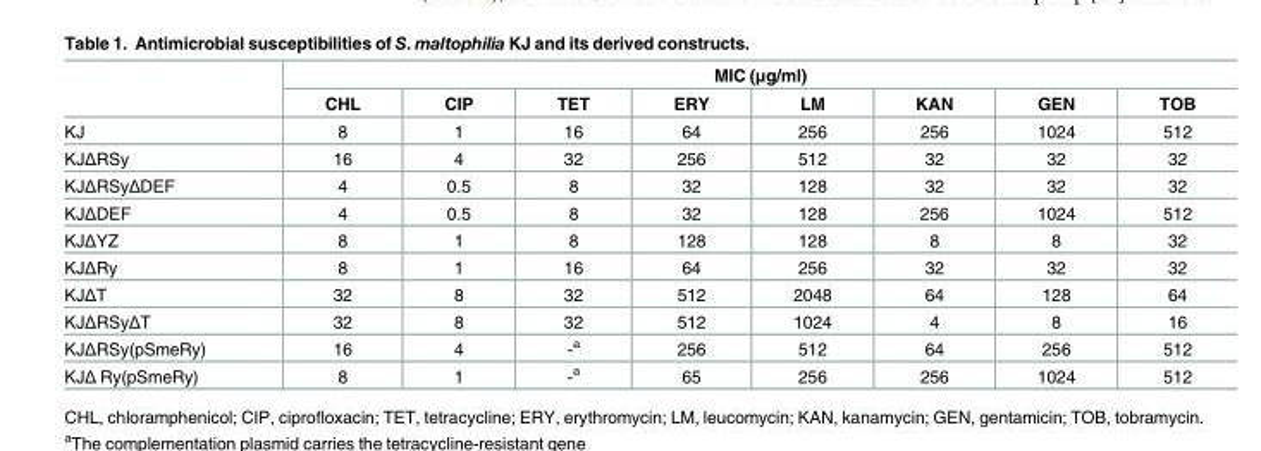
<table><thead><tr><td rowspan="2"></td><td colspan="8">MIC (μg/ml)</td></tr><tr><td>CHL</td><td>CIP</td><td>TET</td><td>ERY</td><td>LM</td><td>KAN</td><td>GEN</td><td>TOB</td></tr></thead><tbody><tr><td>KJ</td><td>8</td><td>1</td><td>16</td><td>64</td><td>256</td><td>256</td><td>1024</td><td>512</td></tr><tr><td>KJΔRSy</td><td>16</td><td>4</td><td>32</td><td>256</td><td>512</td><td>32</td><td>32</td><td>32</td></tr><tr><td>KJΔRSyΔDEF</td><td>4</td><td>0.5</td><td>8</td><td>32</td><td>128</td><td>32</td><td>32</td><td>32</td></tr><tr><td>KJΔDEF</td><td>4</td><td>0.5</td><td>8</td><td>32</td><td>128</td><td>256</td><td>1024</td><td>512</td></tr><tr><td>KJΔYZ</td><td>8</td><td>1</td><td>8</td><td>128</td><td>128</td><td>8</td><td>8</td><td>32</td></tr><tr><td>KJΔRy</td><td>8</td><td>1</td><td>16</td><td>64</td><td>256</td><td>32</td><td>32</td><td>32</td></tr><tr><td>KJΔT</td><td>32</td><td>8</td><td>32</td><td>512</td><td>2048</td><td>64</td><td>128</td><td>64</td></tr><tr><td>KJΔRSyΔT</td><td>32</td><td>8</td><td>32</td><td>512</td><td>1024</td><td>4</td><td>8</td><td>16</td></tr><tr><td>KJΔRSy(pSmeRy)</td><td>16</td><td>4</td><td>-<sup>a</sup></td><td>256</td><td>512</td><td>64</td><td>256</td><td>512</td></tr><tr><td>KJΔ Ry(pSmeRy)</td><td>8</td><td>1</td><td>-<sup>a</sup></td><td>65</td><td>256</td><td>256</td><td>1024</td><td>512</td></tr></tbody></table>